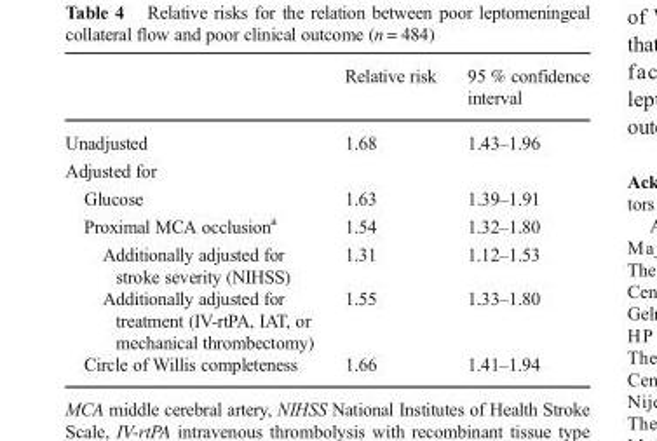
<table><thead><tr><td></td><td>Relative risk</td><td>95 % confidence interval</td></tr></thead><tbody><tr><td>Unadjusted</td><td>1.68</td><td>1.43–1.96</td></tr><tr><td colspan="3">Adjusted for</td></tr><tr><td>Glucose</td><td>1.63</td><td>1.39–1.91</td></tr><tr><td>Proximal MCA occlusion<sup>a</sup></td><td>1.54</td><td>1.32–1.80</td></tr><tr><td>Additionally adjusted for stroke severity (NIHSS)</td><td>1.31</td><td>1.12–1.53</td></tr><tr><td>Additionally adjusted for treatment (IV-rtPA, IAT, or mechanical thrombectomy)</td><td>1.55</td><td>1.33–1.80</td></tr><tr><td>Circle of Willis completeness</td><td>1.66</td><td>1.41–1.94</td></tr></tbody></table>